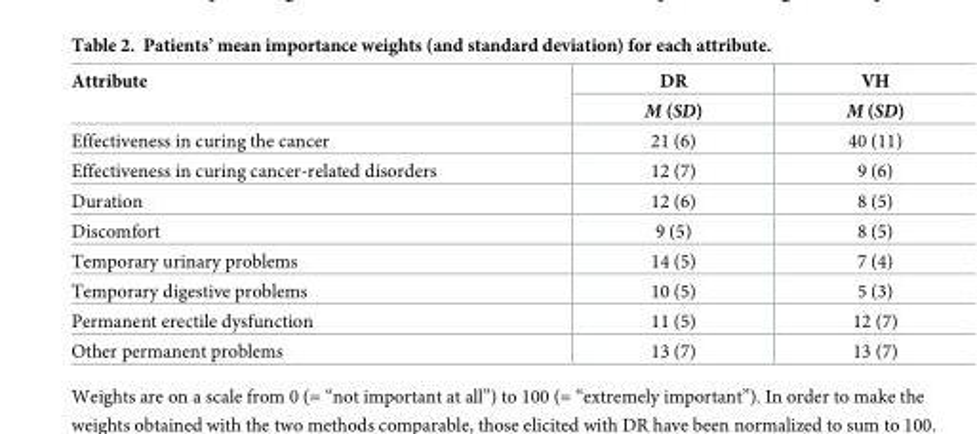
<table><thead><tr><td rowspan="2">Attribute</td><td rowspan="2">DR M (SD)</td><td rowspan="2">VH M (SD)</td></tr><tr></tr></thead><tbody><tr><td>Effectiveness in curing the cancer</td><td>21 (6)</td><td>40 (11)</td></tr><tr><td>Effectiveness in curing cancer-related disorders</td><td>12 (7)</td><td>9 (6)</td></tr><tr><td>Duration</td><td>12 (6)</td><td>8 (5)</td></tr><tr><td>Discomfort</td><td>9 (5)</td><td>8 (5)</td></tr><tr><td>Temporary urinary problems</td><td>14 (5)</td><td>7 (4)</td></tr><tr><td>Temporary digestive problems</td><td>10 (5)</td><td>5 (3)</td></tr><tr><td>Permanent erectile dysfunction</td><td>11 (5)</td><td>12 (7)</td></tr><tr><td>Other permanent problems</td><td>13 (7)</td><td>13 (7)</td></tr></tbody></table>